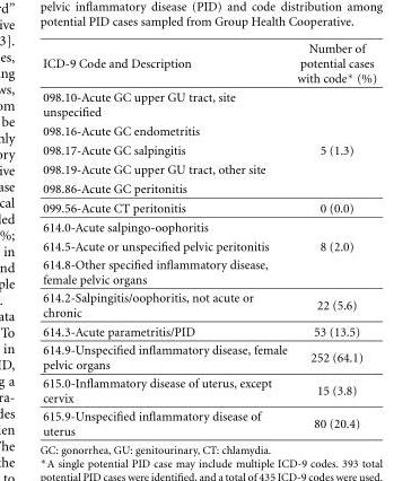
<table><thead><tr><td>ICD-9 Code and Description</td><td>Number of potential cases with code∗ (%)</td></tr></thead><tbody><tr><td colspan="2">098.10-Acute GC upper GU tract, site unspecified</td></tr><tr><td colspan="2">098.16-Acute GC endometritis</td></tr><tr><td>098.17-Acute GC salpingitis</td><td>5 (1.3)</td></tr><tr><td colspan="2">098.19-Acute GC upper GU tract, other site</td></tr><tr><td colspan="2">098.86-Acute GC peritonitis</td></tr><tr><td>099.56-Acute CT peritonitis</td><td>0 (0.0)</td></tr><tr><td colspan="2">614.0-Acute salpingo-oophoritis</td></tr><tr><td>614.5-Acute or unspecified pelvic peritonitis</td><td>8 (2.0)</td></tr><tr><td colspan="2">614.8-Other specified inflammatory disease, female pelvic organs</td></tr><tr><td>614.2-Salpingitis/oophoritis, not acute or chronic</td><td>22 (5.6)</td></tr><tr><td>614.3-Acute parametritis/PID</td><td>53 (13.5)</td></tr><tr><td>614.9-Unspecified inflammatory disease, female pelvic organs</td><td>252 (64.1)</td></tr><tr><td>615.0-Inflammatory disease of uterus, except cervix</td><td>15 (3.8)</td></tr><tr><td>615.9-Unspecified inflammatory disease of uterus</td><td>80 (20.4)</td></tr></tbody></table>